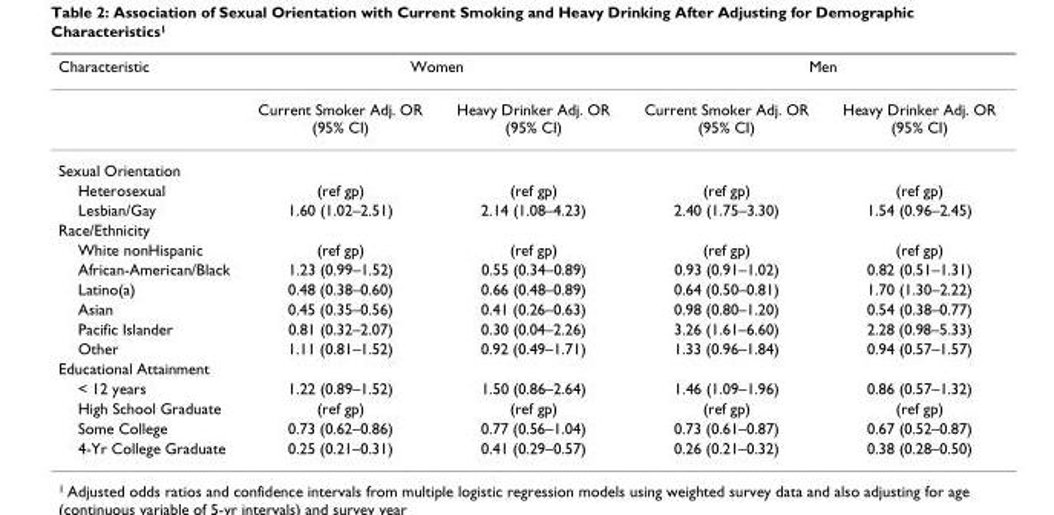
<table><thead><tr><td rowspan="2">Characteristic</td><td colspan="2">Women</td><td colspan="2">Men</td></tr><tr><td>Current Smoker Adj. OR (95% CI)</td><td>Heavy Drinker Adj. OR (95% CI)</td><td>Current Smoker Adj. OR (95% CI)</td><td>Heavy Drinker Adj. OR (95% CI)</td></tr></thead><tbody><tr><td colspan="5">Sexual Orientation</td></tr><tr><td>Heterosexual</td><td>(ref gp)</td><td>(ref gp)</td><td>(ref gp)</td><td>(ref gp)</td></tr><tr><td>Lesbian/Gay</td><td>1.60 (1.02–2.51)</td><td>2.14 (1.08–4.23)</td><td>2.40 (1.75–3.30)</td><td>1.54 (0.96–2.45)</td></tr><tr><td colspan="5">Race/Ethnicity</td></tr><tr><td>White nonHispanic</td><td>(ref gp)</td><td>(ref gp)</td><td>(ref gp)</td><td>(ref gp)</td></tr><tr><td>African-American/Black</td><td>1.23 (0.99–1.52)</td><td>0.55 (0.34–0.89)</td><td>0.93 (0.91–1.02)</td><td>0.82 (0.51–1.31)</td></tr><tr><td>Latino(a)</td><td>0.48 (0.38–0.60)</td><td>0.66 (0.48–0.89)</td><td>0.64 (0.50–0.81)</td><td>1.70 (1.30–2.22)</td></tr><tr><td>Asian</td><td>0.45 (0.35–0.56)</td><td>0.41 (0.26–0.63)</td><td>0.98 (0.80–1.20)</td><td>0.54 (0.38–0.77)</td></tr><tr><td>Pacific Islander</td><td>0.81 (0.32–2.07)</td><td>0.30 (0.04–2.26)</td><td>3.26 (1.61–6.60)</td><td>2.28 (0.98–5.33)</td></tr><tr><td>Other</td><td>1.11 (0.81–1.52)</td><td>0.92 (0.49–1.71)</td><td>1.33 (0.96–1.84)</td><td>0.94 (0.57–1.57)</td></tr><tr><td colspan="5">Educational Attainment</td></tr><tr><td>&lt; 12 years</td><td>1.22 (0.89–1.52)</td><td>1.50 (0.86–2.64)</td><td>1.46 (1.09–1.96)</td><td>0.86 (0.57–1.32)</td></tr><tr><td>High School Graduate</td><td>(ref gp)</td><td>(ref gp)</td><td>(ref gp)</td><td>(ref gp)</td></tr><tr><td>Some College</td><td>0.73 (0.62–0.86)</td><td>0.77 (0.56–1.04)</td><td>0.73 (0.61–0.87)</td><td>0.67 (0.52–0.87)</td></tr><tr><td>4-Yr College Graduate</td><td>0.25 (0.21–0.31)</td><td>0.41 (0.29–0.57)</td><td>0.26 (0.21–0.32)</td><td>0.38 (0.28–0.50)</td></tr></tbody></table>